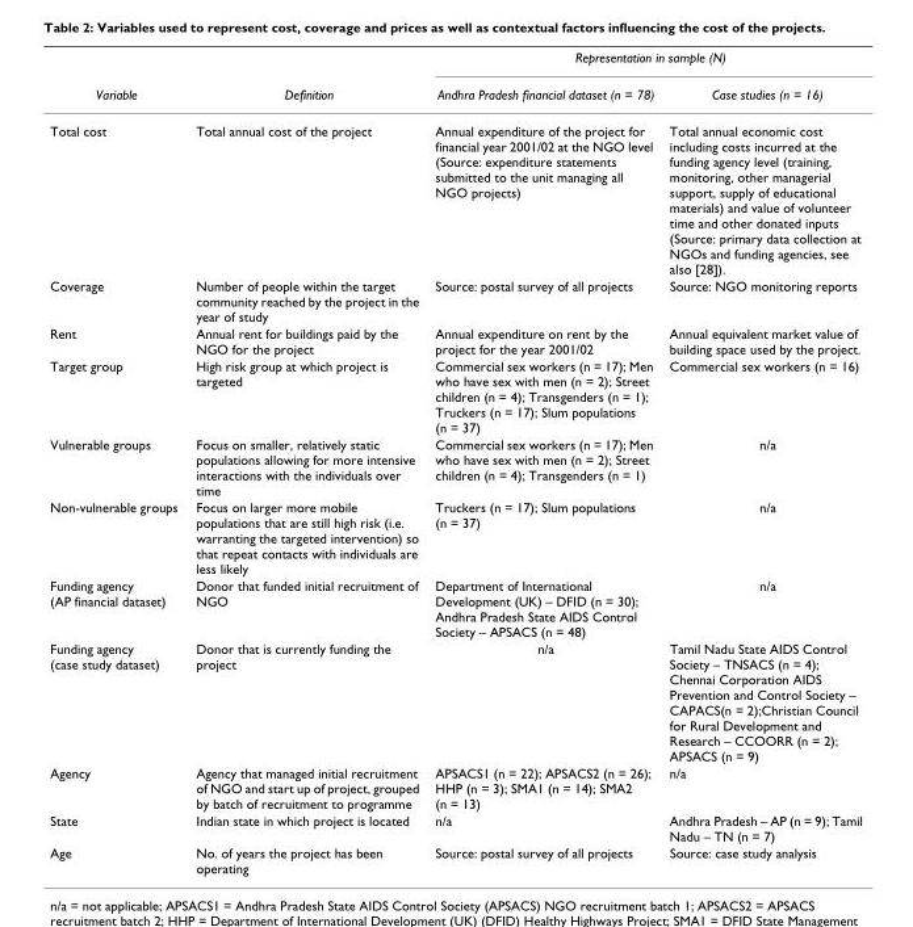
<table><thead><tr><td rowspan="2">Variable</td><td rowspan="2">Definition</td><td colspan="2">Representation in sample (N)</td></tr><tr><td>Andhra Pradesh financial dataset (n = 78)</td><td>Case studies (n = 16)</td></tr></thead><tbody><tr><td>Total cost</td><td>Total annual cost of the project</td><td>Annual expenditure of the project for financial year 2001/02 at the NGO level (Source: expenditure statements submitted to the unit managing all NGO projects)</td><td>Total annual economic cost including costs incurred at the funding agency level (training, monitoring, other managerial support, supply of educational materials) and value of volunteer time and other donated inputs (Source: primary data collection at NGOs and funding agencies, see also [28]).</td></tr><tr><td>Coverage</td><td>Number of people within the target community reached by the project in the year of study</td><td>Source: postal survey of all projects</td><td>Source: NGO monitoring reports</td></tr><tr><td>Rent</td><td>Annual rent for buildings paid by the NGO for the project</td><td>Annual expenditure on rent by the project for the year 2001/02</td><td>Annual equivalent market value of building space used by the project.</td></tr><tr><td>Target group</td><td>High risk group at which project is targeted</td><td>Commercial sex workers (n = 17); Men who have sex with men (n = 2); Street children (n = 4); Transgenders (n = 1); Truckers (n = 17); Slum populations (n = 37)</td><td>Commercial sex workers (n = 16)</td></tr><tr><td>Vulnerable groups</td><td>Focus on smaller, relatively static populations allowing for more intensive interactions with the individuals over time</td><td>Commercial sex workers (n = 17); Men who have sex with men (n = 2); Street children (n = 4); Transgenders (n = 1)</td><td>n/a</td></tr><tr><td>Non-vulnerable groups</td><td>Focus on larger more mobile populations that are still high risk (i.e. warranting the targeted intervention) so that repeat contacts with individuals are less likely</td><td>Truckers (n = 17); Slum populations (n = 37)</td><td>n/a</td></tr><tr><td>Funding agency (AP financial dataset)</td><td>Donor that funded initial recruitment of NGO</td><td>Department of International Development (UK) – DFID (n = 30); Andhra Pradesh State AIDS Control Society – APSACS (n = 48)</td><td>n/a</td></tr><tr><td>Funding agency (case study dataset)</td><td>Donor that is currently funding the project</td><td>n/a</td><td>Tamil Nadu State AIDS Control Society – TNSACS (n = 4); Chennai Corporation AIDS Prevention and Control Society – CAPACS(n = 2);Christian Council for Rural Development and Research – CCOORR (n = 2); APSACS (n = 9)</td></tr><tr><td>Agency</td><td>Agency that managed initial recruitment of NGO and start up of project, grouped by batch of recruitment to programme</td><td>APSACS1 (n = 22); APSACS2 (n = 26); HHP (n = 3); SMA1 (n = 14); SMA2 (n = 13)</td><td>n/a</td></tr><tr><td>State</td><td>Indian state in which project is located</td><td>n/a</td><td>Andhra Pradesh – AP (n = 9); Tamil Nadu – TN (n = 7)</td></tr><tr><td>Age</td><td>No. of years the project has been operating</td><td>Source: postal survey of all projects</td><td>Source: case study analysis</td></tr></tbody></table>